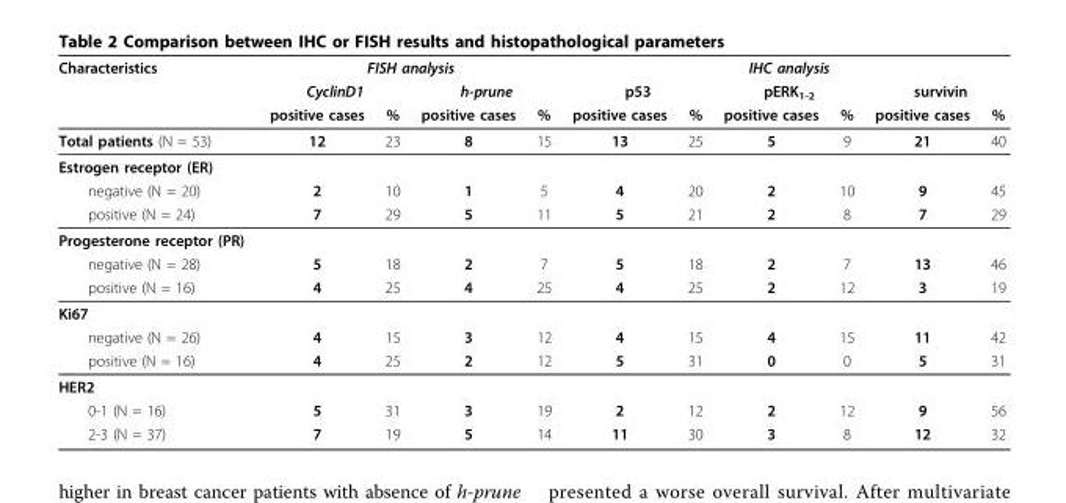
<table><thead><tr><td rowspan="3">Characteristics</td><td colspan="4">FISH analysis</td><td colspan="6">IHC analysis</td></tr><tr><td colspan="2">CyclinD1</td><td colspan="2">h-prune</td><td colspan="2">p53</td><td colspan="2">pERK<sub>1-2</sub></td><td colspan="2">survivin</td></tr><tr><td>positive cases</td><td>%</td><td>positive cases</td><td>%</td><td>positive cases</td><td>%</td><td>positive cases</td><td>%</td><td>positive cases</td><td>%</td></tr></thead><tbody><tr><td>Total patients (N = 53)</td><td>12</td><td>23</td><td>8</td><td>15</td><td>13</td><td>25</td><td>5</td><td>9</td><td>21</td><td>40</td></tr><tr><td colspan="11">Estrogen receptor (ER)</td></tr><tr><td>negative (N = 20)</td><td>2</td><td>10</td><td>1</td><td>5</td><td>4</td><td>20</td><td>2</td><td>10</td><td>9</td><td>45</td></tr><tr><td>positive (N = 24)</td><td>7</td><td>29</td><td>5</td><td>11</td><td>5</td><td>21</td><td>2</td><td>8</td><td>7</td><td>29</td></tr><tr><td colspan="11">Progesterone receptor (PR)</td></tr><tr><td>negative (N = 28)</td><td>5</td><td>18</td><td>2</td><td>7</td><td>5</td><td>18</td><td>2</td><td>7</td><td>13</td><td>46</td></tr><tr><td>positive (N = 16)</td><td>4</td><td>25</td><td>4</td><td>25</td><td>4</td><td>25</td><td>2</td><td>12</td><td>3</td><td>19</td></tr><tr><td colspan="11">Ki67</td></tr><tr><td>negative (N = 26)</td><td>4</td><td>15</td><td>3</td><td>12</td><td>4</td><td>15</td><td>4</td><td>15</td><td>11</td><td>42</td></tr><tr><td>positive (N = 16)</td><td>4</td><td>25</td><td>2</td><td>12</td><td>5</td><td>31</td><td>0</td><td>0</td><td>5</td><td>31</td></tr><tr><td colspan="11">HER2</td></tr><tr><td>0-1 (N = 16)</td><td>5</td><td>31</td><td>3</td><td>19</td><td>2</td><td>12</td><td>2</td><td>12</td><td>9</td><td>56</td></tr><tr><td>2-3 (N = 37)</td><td>7</td><td>19</td><td>5</td><td>14</td><td>11</td><td>30</td><td>3</td><td>8</td><td>12</td><td>32</td></tr></tbody></table>